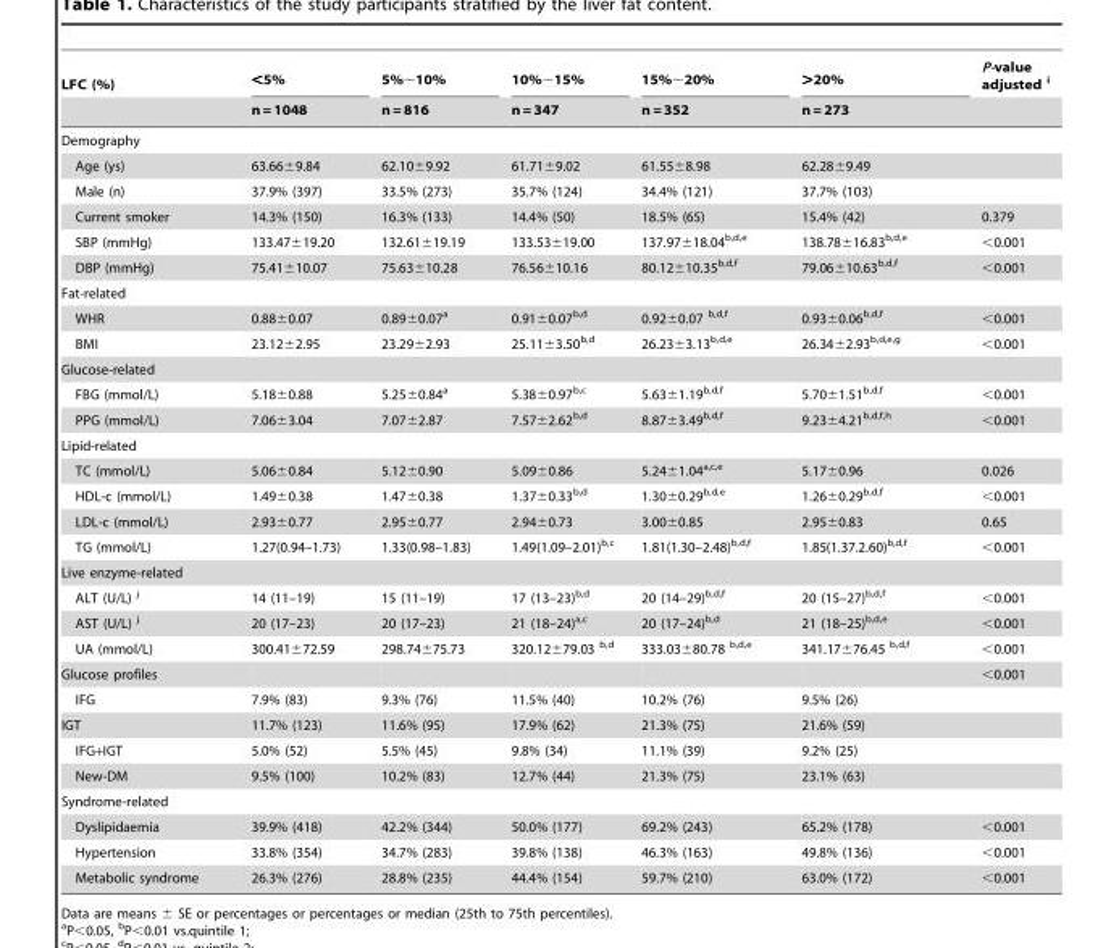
<table><thead><tr><td rowspan="2">LFC (%)</td><td rowspan="2">&lt;5% n = 1048</td><td rowspan="2">5%∼10% n = 816</td><td rowspan="2">10%∼15% n = 347</td><td rowspan="2">15%∼20% n = 352</td><td rowspan="2">&gt;20% n = 273</td><td rowspan="2">P-value adjusted i</td></tr><tr></tr></thead><tbody><tr><td colspan="7">Demography</td></tr><tr><td>Age (ys)</td><td>63.66±9.84</td><td>62.10±9.92</td><td>61.71±9.02</td><td>61.55±8.98</td><td>62.28±9.49</td><td></td></tr><tr><td>Male (n)</td><td>37.9% (397)</td><td>33.5% (273)</td><td>35.7% (124)</td><td>34.4% (121)</td><td>37.7% (103)</td><td></td></tr><tr><td>Current smoker</td><td>14.3% (150)</td><td>16.3% (133)</td><td>14.4% (50)</td><td>18.5% (65)</td><td>15.4% (42)</td><td>0.379</td></tr><tr><td>SBP (mmHg)</td><td>133.47±19.20</td><td>132.61±19.19</td><td>133.53±19.00</td><td>137.97±18.04<sup>b,d,</sup>e</td><td>138.78±16.83<sup>b,d,</sup>e</td><td>&lt;0.001</td></tr><tr><td>DBP (mmHg)</td><td>75.41±10.07</td><td>75.63±10.28</td><td>76.56±10.16</td><td>80.12±10.35<sup>b,d,f</sup></td><td>79.06±10.63<sup>b,d,f</sup></td><td>&lt;0.001</td></tr><tr><td colspan="7">Fat-related</td></tr><tr><td>WHR</td><td>0.88±0.07</td><td>0.89±0.07<sup>a</sup></td><td>0.91±0.07<sup>b,d</sup></td><td>0.92±0.07 <sup>b,d,f</sup></td><td>0.93±0.06<sup>b,d,f</sup></td><td>&lt;0.001</td></tr><tr><td>BMI</td><td>23.12±2.95</td><td>23.29±2.93</td><td>25.11±3.50<sup>b,d</sup></td><td>26.23±3.13<sup>b,d,</sup>e</td><td>26.34±2.93<sup>b,d,</sup>e,g</td><td>&lt;0.001</td></tr><tr><td colspan="7">Glucose-related</td></tr><tr><td>FBG (mmol/L)</td><td>5.18±0.88</td><td>5.25±0.84<sup>a</sup></td><td>5.38±0.97<sup>b,</sup>c</td><td>5.63±1.19<sup>b,d,f</sup></td><td>5.70±1.51<sup>b,d,f</sup></td><td>&lt;0.001</td></tr><tr><td>PPG (mmol/L)</td><td>7.06±3.04</td><td>7.07±2.87</td><td>7.57±2.62<sup>b,d</sup></td><td>8.87±3.49<sup>b,d,f</sup></td><td>9.23±4.21<sup>b,d,f,h</sup></td><td>&lt;0.001</td></tr><tr><td colspan="7">Lipid-related</td></tr><tr><td>TC (mmol/L)</td><td>5.06±0.84</td><td>5.12±0.90</td><td>5.09±0.86</td><td>5.24±1.04a,c,e</td><td>5.17±0.96</td><td>0.026</td></tr><tr><td>HDL-c (mmol/L)</td><td>1.49±0.38</td><td>1.47±0.38</td><td>1.37±0.33<sup>b,d</sup></td><td>1.30±0.29<sup>b,d,</sup>e</td><td>1.26±0.29<sup>b,d,f</sup></td><td>&lt;0.001</td></tr><tr><td>LDL-c (mmol/L)</td><td>2.93±0.77</td><td>2.95±0.77</td><td>2.94±0.73</td><td>3.00±0.85</td><td>2.95±0.83</td><td>0.65</td></tr><tr><td>TG (mmol/L)</td><td>1.27(0.94–1.73)</td><td>1.33(0.98–1.83)</td><td>1.49(1.09–2.01)<sup>b,</sup>c</td><td>1.81(1.30–2.48)<sup>b,d,f</sup></td><td>1.85(1.37.2.60)<sup>b,d,f</sup></td><td>&lt;0.001</td></tr><tr><td colspan="7">Live enzyme-related</td></tr><tr><td>ALT (U/L) <sup>j</sup></td><td>14 (11–19)</td><td>15 (11–19)</td><td>17 (13–23)<sup>b,d</sup></td><td>20 (14–29)<sup>b,d,f</sup></td><td>20 (15–27)<sup>b,d,f</sup></td><td>&lt;0.001</td></tr><tr><td>AST (U/L) <sup>j</sup></td><td>20 (17–23)</td><td>20 (17–23)</td><td>21 (18–24)a,c</td><td>20 (17–24)<sup>b,d</sup></td><td>21 (18–25)<sup>b,d,</sup>e</td><td>&lt;0.001</td></tr><tr><td>UA (mmol/L)</td><td>300.41±72.59</td><td>298.74±75.73</td><td>320.12±79.03 <sup>b,d</sup></td><td>333.03±80.78 <sup>b,d,</sup>e</td><td>341.17±76.45 <sup>b,d,f</sup></td><td>&lt;0.001</td></tr><tr><td>Glucose profiles</td><td></td><td></td><td></td><td></td><td></td><td>&lt;0.001</td></tr><tr><td>IFG</td><td>7.9% (83)</td><td>9.3% (76)</td><td>11.5% (40)</td><td>10.2% (76)</td><td>9.5% (26)</td><td></td></tr><tr><td>IGT</td><td>11.7% (123)</td><td>11.6% (95)</td><td>17.9% (62)</td><td>21.3% (75)</td><td>21.6% (59)</td><td></td></tr><tr><td>IFG+IGT</td><td>5.0% (52)</td><td>5.5% (45)</td><td>9.8% (34)</td><td>11.1% (39)</td><td>9.2% (25)</td><td></td></tr><tr><td>New-DM</td><td>9.5% (100)</td><td>10.2% (83)</td><td>12.7% (44)</td><td>21.3% (75)</td><td>23.1% (63)</td><td></td></tr><tr><td colspan="7">Syndrome-related</td></tr><tr><td>Dyslipidaemia</td><td>39.9% (418)</td><td>42.2% (344)</td><td>50.0% (177)</td><td>69.2% (243)</td><td>65.2% (178)</td><td>&lt;0.001</td></tr><tr><td>Hypertension</td><td>33.8% (354)</td><td>34.7% (283)</td><td>39.8% (138)</td><td>46.3% (163)</td><td>49.8% (136)</td><td>&lt;0.001</td></tr><tr><td>Metabolic syndrome</td><td>26.3% (276)</td><td>28.8% (235)</td><td>44.4% (154)</td><td>59.7% (210)</td><td>63.0% (172)</td><td>&lt;0.001</td></tr></tbody></table>